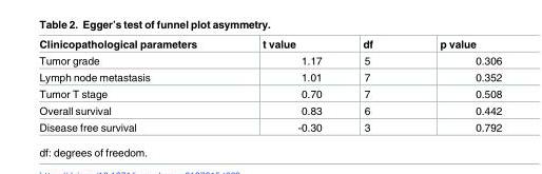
<table><thead><tr><td>Clinicopathological parameters</td><td>t value</td><td>df</td><td>p value</td></tr></thead><tbody><tr><td>Tumor grade</td><td>1.17</td><td>5</td><td>0.306</td></tr><tr><td>Lymph node metastasis</td><td>1.01</td><td>7</td><td>0.352</td></tr><tr><td>Tumor T stage</td><td>0.70</td><td>7</td><td>0.508</td></tr><tr><td>Overall survival</td><td>0.83</td><td>6</td><td>0.442</td></tr><tr><td>Disease free survival</td><td>-0.30</td><td>3</td><td>0.792</td></tr></tbody></table>